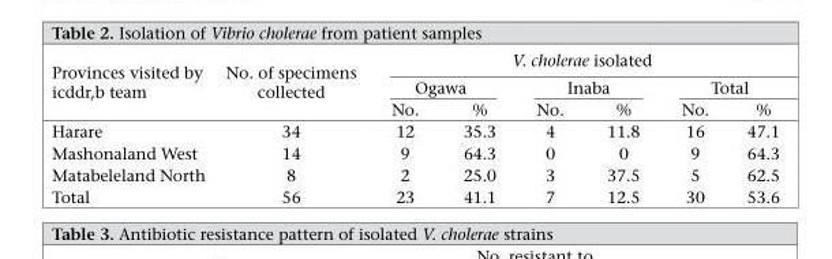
<table><thead><tr><td rowspan="3">Provinces visited by icddr,b team</td><td rowspan="3">No. of specimens collected</td><td colspan="6">V. cholerae isolated</td></tr><tr><td colspan="2">Ogawa</td><td colspan="2">Inaba</td><td colspan="2">Total</td></tr><tr><td>No.</td><td>%</td><td>No.</td><td>%</td><td>No.</td><td>%</td></tr></thead><tbody><tr><td>Harare</td><td>34</td><td>12</td><td>35.3</td><td>4</td><td>11.8</td><td>16</td><td>47.1</td></tr><tr><td>Mashonaland West</td><td>14</td><td>9</td><td>64.3</td><td>0</td><td>0</td><td>9</td><td>64.3</td></tr><tr><td>Matabeleland North</td><td>8</td><td>2</td><td>25.0</td><td>3</td><td>37.5</td><td>5</td><td>62.5</td></tr><tr><td>Total</td><td>56</td><td>23</td><td>41.1</td><td>7</td><td>12.5</td><td>30</td><td>53.6</td></tr></tbody></table>